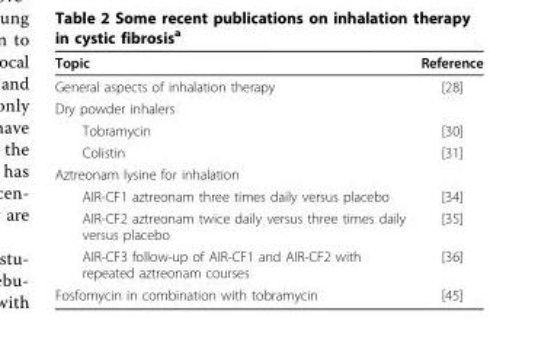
<table><thead><tr><td>Topic</td><td>Reference</td></tr></thead><tbody><tr><td>General aspects of inhalation therapy</td><td>[28]</td></tr><tr><td colspan="2">Dry powder inhalers</td></tr><tr><td>Tobramycin</td><td>[30]</td></tr><tr><td>Colistin</td><td>[31]</td></tr><tr><td colspan="2">Aztreonam lysine for inhalation</td></tr><tr><td>AIR-CF1 aztreonam three times daily versus placebo</td><td>[34]</td></tr><tr><td>AIR-CF2 aztreonam twice daily versus three times daily versus placebo</td><td>[35]</td></tr><tr><td>AIR-CF3 follow-up of AIR-CF1 and AIR-CF2 with repeated aztreonam courses</td><td>[36]</td></tr><tr><td>Fosfomycin in combination with tobramycin</td><td>[45]</td></tr></tbody></table>